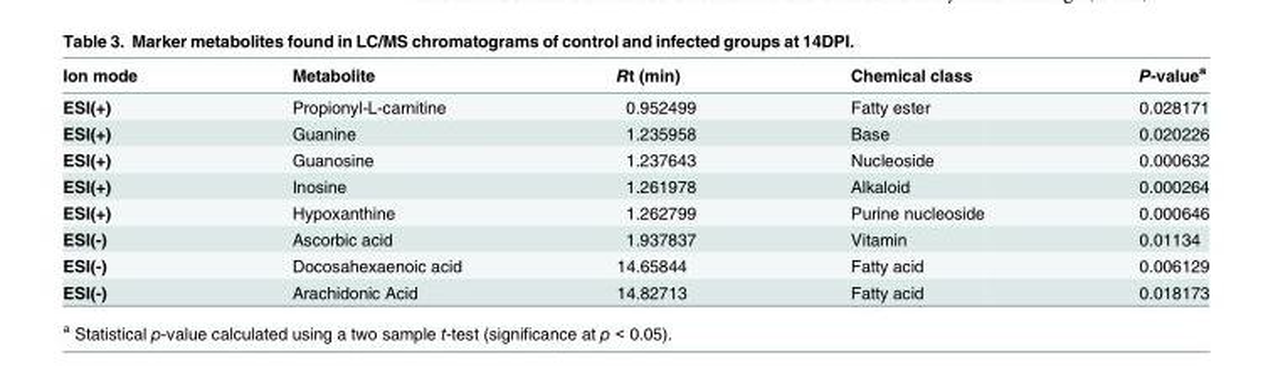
<table><thead><tr><td>Ion mode</td><td>Metabolite</td><td>Rt (min)</td><td>Chemical class</td><td>P-value<sup>a</sup></td></tr></thead><tbody><tr><td>ESI(+)</td><td>Propionyl-L-carnitine</td><td>0.952499</td><td>Fatty ester</td><td>0.028171</td></tr><tr><td>ESI(+)</td><td>Guanine</td><td>1.235958</td><td>Base</td><td>0.020226</td></tr><tr><td>ESI(+)</td><td>Guanosine</td><td>1.237643</td><td>Nucleoside</td><td>0.000632</td></tr><tr><td>ESI(+)</td><td>Inosine</td><td>1.261978</td><td>Alkaloid</td><td>0.000264</td></tr><tr><td>ESI(+)</td><td>Hypoxanthine</td><td>1.262799</td><td>Purine nucleoside</td><td>0.000646</td></tr><tr><td>ESI(-)</td><td>Ascorbic acid</td><td>1.937837</td><td>Vitamin</td><td>0.01134</td></tr><tr><td>ESI(-)</td><td>Docosahexaenoic acid</td><td>14.65844</td><td>Fatty acid</td><td>0.006129</td></tr><tr><td>ESI(-)</td><td>Arachidonic Acid</td><td>14.82713</td><td>Fatty acid</td><td>0.018173</td></tr></tbody></table>